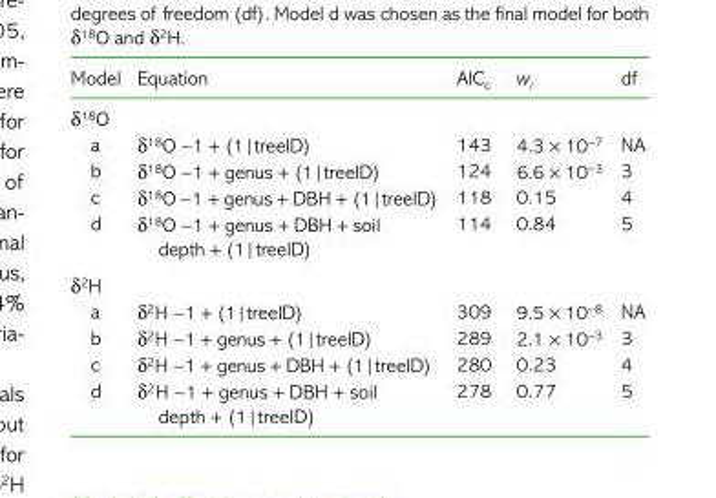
<table><thead><tr><td>Model</td><td>Equation</td><td>AIC<sub>c</sub></td><td>w<sub>i</sub></td><td>df</td></tr></thead><tbody><tr><td colspan="5">δ<sup>18</sup>O</td></tr><tr><td>a</td><td>δ<sup>18</sup>O ∼1 + (1|treeID)</td><td>143</td><td>4.3 × 10<sup>−7</sup></td><td>NA</td></tr><tr><td>b</td><td>δ<sup>18</sup>O ∼1 + genus + (1|treeID)</td><td>124</td><td>6.6 × 10<sup>−3</sup></td><td>3</td></tr><tr><td>c</td><td>δ<sup>18</sup>O ∼1 + genus + DBH + (1|treeID)</td><td>118</td><td>0.15</td><td>4</td></tr><tr><td>d</td><td>δ<sup>18</sup>O ∼1 + genus + DBH + soil depth + (1|treeID)</td><td>114</td><td>0.84</td><td>5</td></tr><tr><td colspan="5">δ<sup>2</sup>H</td></tr><tr><td>a</td><td>δ<sup>2</sup>H ∼1 + (1|treeID)</td><td>309</td><td>9.5 × 10<sup>−8</sup></td><td>NA</td></tr><tr><td>b</td><td>δ<sup>2</sup>H ∼1 + genus + (1|treeID)</td><td>289</td><td>2.1 × 10<sup>−3</sup></td><td>3</td></tr><tr><td>c</td><td>δ<sup>2</sup>H ∼1 + genus + DBH + (1|treeID)</td><td>280</td><td>0.23</td><td>4</td></tr><tr><td>d</td><td>δ<sup>2</sup>H ∼1 + genus + DBH + soil depth + (1|treeID)</td><td>278</td><td>0.77</td><td>5</td></tr></tbody></table>